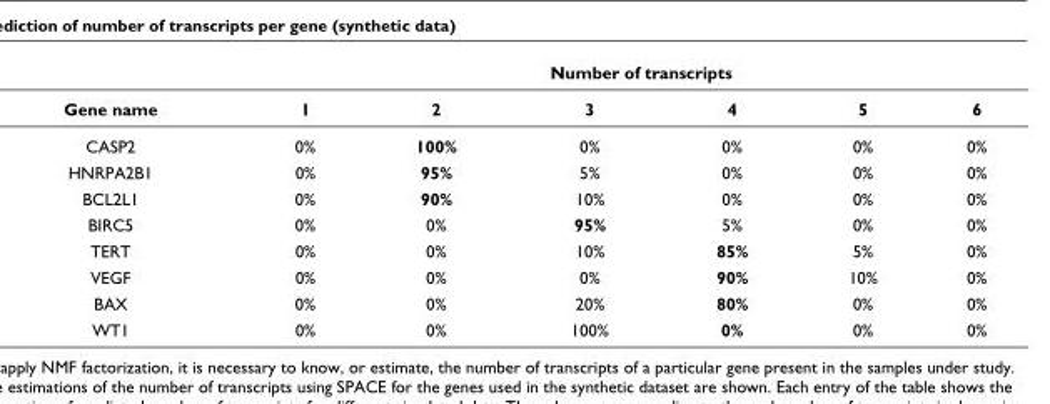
<table><thead><tr><td rowspan="2">Gene name</td><td colspan="6">Number of transcripts</td></tr><tr><td>1</td><td>2</td><td>3</td><td>4</td><td>5</td><td>6</td></tr></thead><tbody><tr><td>CASP2</td><td>0%</td><td>100%</td><td>0%</td><td>0%</td><td>0%</td><td>0%</td></tr><tr><td>HNRPA2B1</td><td>0%</td><td>95%</td><td>5%</td><td>0%</td><td>0%</td><td>0%</td></tr><tr><td>BCL2L1</td><td>0%</td><td>90%</td><td>10%</td><td>0%</td><td>0%</td><td>0%</td></tr><tr><td>BIRC5</td><td>0%</td><td>0%</td><td>95%</td><td>5%</td><td>0%</td><td>0%</td></tr><tr><td>TERT</td><td>0%</td><td>0%</td><td>10%</td><td>85%</td><td>5%</td><td>0%</td></tr><tr><td>VEGF</td><td>0%</td><td>0%</td><td>0%</td><td>90%</td><td>10%</td><td>0%</td></tr><tr><td>BAX</td><td>0%</td><td>0%</td><td>20%</td><td>80%</td><td>0%</td><td>0%</td></tr><tr><td>WT1</td><td>0%</td><td>0%</td><td>100%</td><td>0%</td><td>0%</td><td>0%</td></tr></tbody></table>